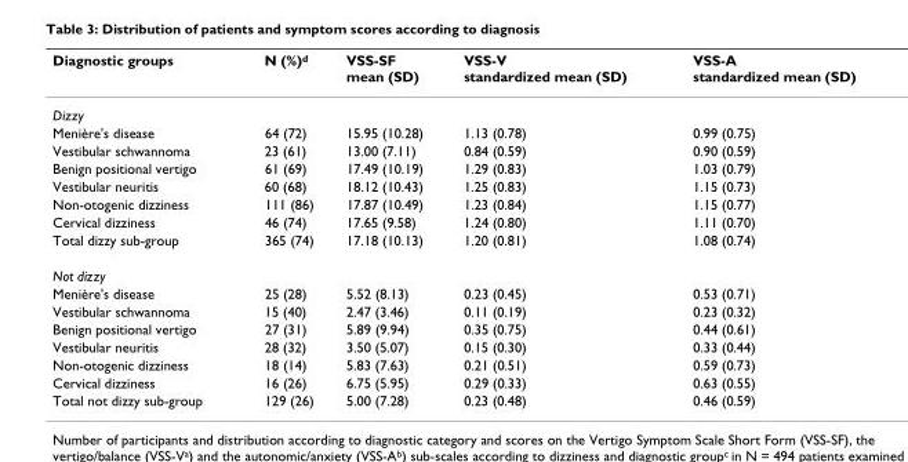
<table><thead><tr><td>Diagnostic groups</td><td>N (%)<sup>d</sup></td><td>VSS-SF mean (SD)</td><td>VSS-V standardized mean (SD)</td><td>VSS-A standardized mean (SD)</td></tr></thead><tbody><tr><td colspan="5">Dizzy</td></tr><tr><td>Menière&#x27;s disease</td><td>64 (72)</td><td>15.95 (10.28)</td><td>1.13 (0.78)</td><td>0.99 (0.75)</td></tr><tr><td>Vestibular schwannoma</td><td>23 (61)</td><td>13.00 (7.11)</td><td>0.84 (0.59)</td><td>0.90 (0.59)</td></tr><tr><td>Benign positional vertigo</td><td>61 (69)</td><td>17.49 (10.19)</td><td>1.29 (0.83)</td><td>1.03 (0.79)</td></tr><tr><td>Vestibular neuritis</td><td>60 (68)</td><td>18.12 (10.43)</td><td>1.25 (0.83)</td><td>1.15 (0.73)</td></tr><tr><td>Non-otogenic dizziness</td><td>111 (86)</td><td>17.87 (10.49)</td><td>1.23 (0.84)</td><td>1.15 (0.77)</td></tr><tr><td>Cervical dizziness</td><td>46 (74)</td><td>17.65 (9.58)</td><td>1.24 (0.80)</td><td>1.11 (0.70)</td></tr><tr><td>Total dizzy sub-group</td><td>365 (74)</td><td>17.18 (10.13)</td><td>1.20 (0.81)</td><td>1.08 (0.74)</td></tr><tr><td colspan="5">Not dizzy</td></tr><tr><td>Menière&#x27;s disease</td><td>25 (28)</td><td>5.52 (8.13)</td><td>0.23 (0.45)</td><td>0.53 (0.71)</td></tr><tr><td>Vestibular schwannoma</td><td>15 (40)</td><td>2.47 (3.46)</td><td>0.11 (0.19)</td><td>0.23 (0.32)</td></tr><tr><td>Benign positional vertigo</td><td>27 (31)</td><td>5.89 (9.94)</td><td>0.35 (0.75)</td><td>0.44 (0.61)</td></tr><tr><td>Vestibular neuritis</td><td>28 (32)</td><td>3.50 (5.07)</td><td>0.15 (0.30)</td><td>0.33 (0.44)</td></tr><tr><td>Non-otogenic dizziness</td><td>18 (14)</td><td>5.83 (7.63)</td><td>0.21 (0.51)</td><td>0.59 (0.73)</td></tr><tr><td>Cervical dizziness</td><td>16 (26)</td><td>6.75 (5.95)</td><td>0.29 (0.33)</td><td>0.63 (0.55)</td></tr><tr><td>Total not dizzy sub-group</td><td>129 (26)</td><td>5.00 (7.28)</td><td>0.23 (0.48)</td><td>0.46 (0.59)</td></tr></tbody></table>